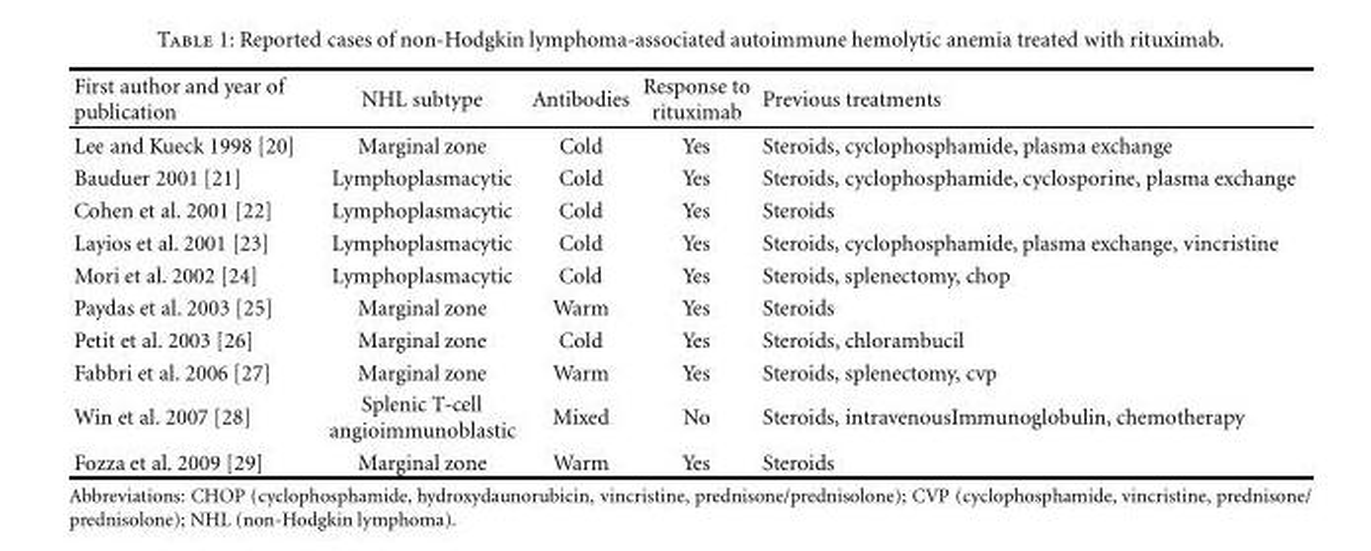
<table><thead><tr><td>First author and year of publication</td><td>NHL subtype</td><td>Antibodies</td><td>Response to rituximab</td><td>Previous treatments</td></tr></thead><tbody><tr><td>Lee and Kueck 1998 [20]</td><td>Marginal zone</td><td>Cold</td><td>Yes</td><td>Steroids, cyclophosphamide, plasma exchange</td></tr><tr><td>Bauduer 2001 [21]</td><td>Lymphoplasmacytic</td><td>Cold</td><td>Yes</td><td>Steroids, cyclophosphamide, cyclosporine, plasma exchange</td></tr><tr><td>Cohen et al. 2001 [22]</td><td>Lymphoplasmacytic</td><td>Cold</td><td>Yes</td><td>Steroids</td></tr><tr><td>Layios et al. 2001 [23]</td><td>Lymphoplasmacytic</td><td>Cold</td><td>Yes</td><td>Steroids, cyclophosphamide, plasma exchange, vincristine</td></tr><tr><td>Mori et al. 2002 [24]</td><td>Lymphoplasmacytic</td><td>Cold</td><td>Yes</td><td>Steroids, splenectomy, chop</td></tr><tr><td>Paydas et al. 2003 [25]</td><td>Marginal zone</td><td>Warm</td><td>Yes</td><td>Steroids</td></tr><tr><td>Petit et al. 2003 [26]</td><td>Marginal zone</td><td>Cold</td><td>Yes</td><td>Steroids, chlorambucil</td></tr><tr><td>Fabbri et al. 2006 [27]</td><td>Marginal zone</td><td>Warm</td><td>Yes</td><td>Steroids, splenectomy, cvp</td></tr><tr><td>Win et al. 2007 [28]</td><td>Splenic T-cell angioimmunoblastic</td><td>Mixed</td><td>No</td><td>Steroids, intravenousImmunoglobulin, chemotherapy</td></tr><tr><td>Fozza et al. 2009 [29]</td><td>Marginal zone</td><td>Warm</td><td>Yes</td><td>Steroids</td></tr></tbody></table>